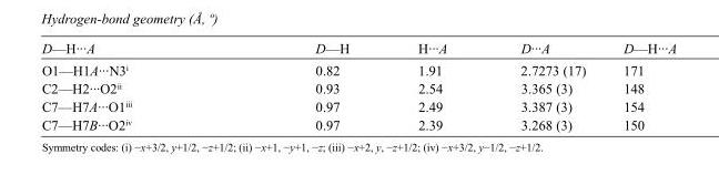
<table><tbody><tr><td>D—H···A</td><td>D—H</td><td>H···A</td><td>D···A</td><td>D—H···A</td></tr><tr><td>O1—H1A···N3<sup>i</sup></td><td>0.82</td><td>1.91</td><td>2.7273 (17)</td><td>171</td></tr><tr><td>C2—H2···O2<sup>ii</sup></td><td>0.93</td><td>2.54</td><td>3.365 (3)</td><td>148</td></tr><tr><td>C7—H7A···O1<sup>iii</sup></td><td>0.97</td><td>2.49</td><td>3.387 (3)</td><td>154</td></tr><tr><td>C7—H7B···O2<sup>iv</sup></td><td>0.97</td><td>2.39</td><td>3.268 (3)</td><td>150</td></tr></tbody></table>